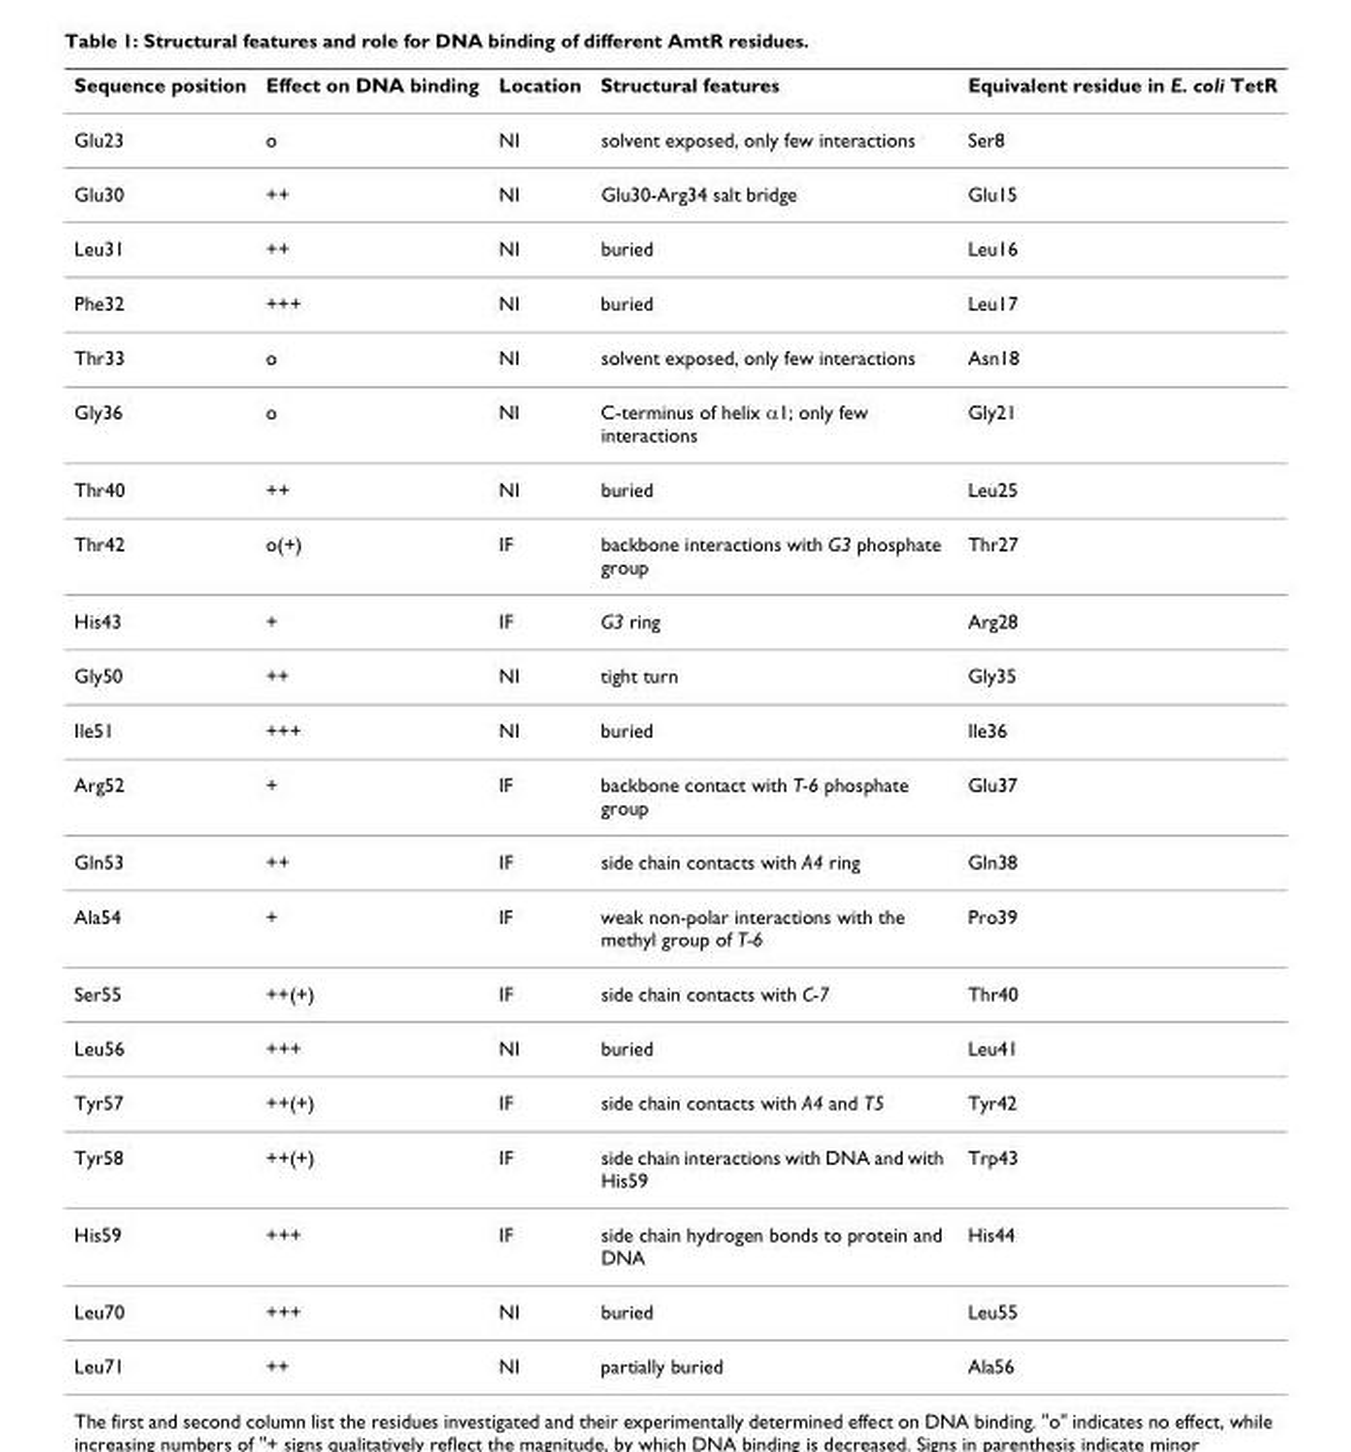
<table><thead><tr><td>Sequence position</td><td>Effect on DNA binding</td><td>Location</td><td>Structural features</td><td>Equivalent residue in E. coli TetR</td></tr></thead><tbody><tr><td>Glu23</td><td>o</td><td>NI</td><td>solvent exposed, only few interactions</td><td>Ser8</td></tr><tr><td>Glu30</td><td>++</td><td>NI</td><td>Glu30-Arg34 salt bridge</td><td>Glu15</td></tr><tr><td>Leu31</td><td>++</td><td>NI</td><td>buried</td><td>Leu16</td></tr><tr><td>Phe32</td><td>+++</td><td>NI</td><td>buried</td><td>Leu17</td></tr><tr><td>Thr33</td><td>o</td><td>NI</td><td>solvent exposed, only few interactions</td><td>Asn18</td></tr><tr><td>Gly36</td><td>o</td><td>NI</td><td>C-terminus of helix α1; only few interactions</td><td>Gly21</td></tr><tr><td>Thr40</td><td>++</td><td>NI</td><td>buried</td><td>Leu25</td></tr><tr><td>Thr42</td><td>o(+)</td><td>IF</td><td>backbone interactions with G3 phosphate group</td><td>Thr27</td></tr><tr><td>His43</td><td>+</td><td>IF</td><td>G3 ring</td><td>Arg28</td></tr><tr><td>Gly50</td><td>++</td><td>NI</td><td>tight turn</td><td>Gly35</td></tr><tr><td>Ile51</td><td>+++</td><td>NI</td><td>buried</td><td>Ile36</td></tr><tr><td>Arg52</td><td>+</td><td>IF</td><td>backbone contact with T-6 phosphate group</td><td>Glu37</td></tr><tr><td>Gln53</td><td>++</td><td>IF</td><td>side chain contacts with A4 ring</td><td>Gln38</td></tr><tr><td>Ala54</td><td>+</td><td>IF</td><td>weak non-polar interactions with the methyl group of T-6</td><td>Pro39</td></tr><tr><td>Ser55</td><td>++(+)</td><td>IF</td><td>side chain contacts with C-7</td><td>Thr40</td></tr><tr><td>Leu56</td><td>+++</td><td>NI</td><td>buried</td><td>Leu41</td></tr><tr><td>Tyr57</td><td>++(+)</td><td>IF</td><td>side chain contacts with A4 and T5</td><td>Tyr42</td></tr><tr><td>Tyr58</td><td>++(+)</td><td>IF</td><td>side chain interactions with DNA and with His59</td><td>Trp43</td></tr><tr><td>His59</td><td>+++</td><td>IF</td><td>side chain hydrogen bonds to protein and DNA</td><td>His44</td></tr><tr><td>Leu70</td><td>+++</td><td>NI</td><td>buried</td><td>Leu55</td></tr><tr><td>Leu71</td><td>++</td><td>NI</td><td>partially buried</td><td>Ala56</td></tr></tbody></table>